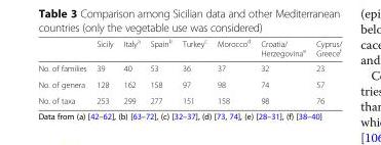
<table><thead><tr><td></td><td>Sicily</td><td>Italy<sup>a</sup></td><td>Spain<sup>b</sup></td><td>Turkey<sup>c</sup></td><td>Morocco<sup>d</sup></td><td>Croatia/ Herzegovina<sup>e</sup></td><td>Cyprus/ Greece<sup>f</sup></td></tr></thead><tbody><tr><td>No. of families</td><td>39</td><td>40</td><td>53</td><td>36</td><td>37</td><td>32</td><td>23</td></tr><tr><td>No. of genera</td><td>128</td><td>162</td><td>158</td><td>97</td><td>98</td><td>74</td><td>57</td></tr><tr><td>No. of taxa</td><td>253</td><td>299</td><td>277</td><td>151</td><td>158</td><td>98</td><td>76</td></tr></tbody></table>